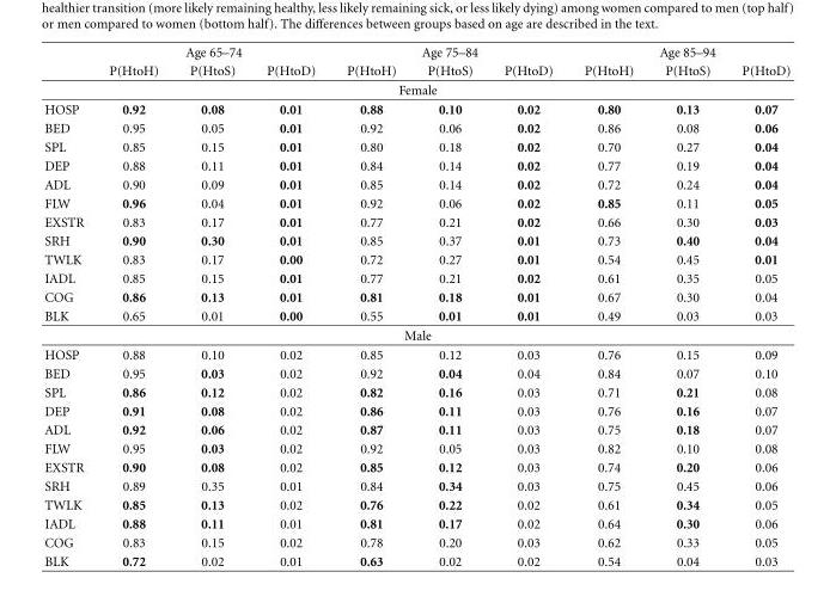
<table><thead><tr><td rowspan="2"></td><td colspan="3">Age 65–74</td><td colspan="3">Age 75–84</td><td colspan="3">Age 85–94</td></tr><tr><td>P(HtoH)</td><td>P(HtoS)</td><td>P(HtoD)</td><td>P(HtoH)</td><td>P(HtoS)</td><td>P(HtoD)</td><td>P(HtoH)</td><td>P(HtoS)</td><td>P(HtoD)</td></tr></thead><tbody><tr><td colspan="10">Female</td></tr><tr><td>HOSP</td><td>0.92</td><td>0.08</td><td>0.01</td><td>0.88</td><td>0.10</td><td>0.02</td><td>0.80</td><td>0.13</td><td>0.07</td></tr><tr><td>BED</td><td>0.95</td><td>0.05</td><td>0.01</td><td>0.92</td><td>0.06</td><td>0.02</td><td>0.86</td><td>0.08</td><td>0.06</td></tr><tr><td>SPL</td><td>0.85</td><td>0.15</td><td>0.01</td><td>0.80</td><td>0.18</td><td>0.02</td><td>0.70</td><td>0.27</td><td>0.04</td></tr><tr><td>DEP</td><td>0.88</td><td>0.11</td><td>0.01</td><td>0.84</td><td>0.14</td><td>0.02</td><td>0.77</td><td>0.19</td><td>0.04</td></tr><tr><td>ADL</td><td>0.90</td><td>0.09</td><td>0.01</td><td>0.85</td><td>0.14</td><td>0.02</td><td>0.72</td><td>0.24</td><td>0.04</td></tr><tr><td>FLW</td><td>0.96</td><td>0.04</td><td>0.01</td><td>0.92</td><td>0.06</td><td>0.02</td><td>0.85</td><td>0.11</td><td>0.05</td></tr><tr><td>EXSTR</td><td>0.83</td><td>0.17</td><td>0.01</td><td>0.77</td><td>0.21</td><td>0.02</td><td>0.66</td><td>0.30</td><td>0.03</td></tr><tr><td>SRH</td><td>0.90</td><td>0.30</td><td>0.01</td><td>0.85</td><td>0.37</td><td>0.01</td><td>0.73</td><td>0.40</td><td>0.04</td></tr><tr><td>TWLK</td><td>0.83</td><td>0.17</td><td>0.00</td><td>0.72</td><td>0.27</td><td>0.01</td><td>0.54</td><td>0.45</td><td>0.01</td></tr><tr><td>IADL</td><td>0.85</td><td>0.15</td><td>0.01</td><td>0.77</td><td>0.21</td><td>0.02</td><td>0.61</td><td>0.35</td><td>0.05</td></tr><tr><td>COG</td><td>0.86</td><td>0.13</td><td>0.01</td><td>0.81</td><td>0.18</td><td>0.01</td><td>0.67</td><td>0.30</td><td>0.04</td></tr><tr><td>BLK</td><td>0.65</td><td>0.01</td><td>0.00</td><td>0.55</td><td>0.01</td><td>0.01</td><td>0.49</td><td>0.03</td><td>0.03</td></tr><tr><td colspan="10">Male</td></tr><tr><td>HOSP</td><td>0.88</td><td>0.10</td><td>0.02</td><td>0.85</td><td>0.12</td><td>0.03</td><td>0.76</td><td>0.15</td><td>0.09</td></tr><tr><td>BED</td><td>0.95</td><td>0.03</td><td>0.02</td><td>0.92</td><td>0.04</td><td>0.04</td><td>0.84</td><td>0.07</td><td>0.10</td></tr><tr><td>SPL</td><td>0.86</td><td>0.12</td><td>0.02</td><td>0.82</td><td>0.16</td><td>0.03</td><td>0.71</td><td>0.21</td><td>0.08</td></tr><tr><td>DEP</td><td>0.91</td><td>0.08</td><td>0.02</td><td>0.86</td><td>0.11</td><td>0.03</td><td>0.76</td><td>0.16</td><td>0.07</td></tr><tr><td>ADL</td><td>0.92</td><td>0.06</td><td>0.02</td><td>0.87</td><td>0.11</td><td>0.03</td><td>0.75</td><td>0.18</td><td>0.07</td></tr><tr><td>FLW</td><td>0.95</td><td>0.03</td><td>0.02</td><td>0.92</td><td>0.05</td><td>0.03</td><td>0.82</td><td>0.10</td><td>0.08</td></tr><tr><td>EXSTR</td><td>0.90</td><td>0.08</td><td>0.02</td><td>0.85</td><td>0.12</td><td>0.03</td><td>0.74</td><td>0.20</td><td>0.06</td></tr><tr><td>SRH</td><td>0.89</td><td>0.35</td><td>0.01</td><td>0.84</td><td>0.34</td><td>0.03</td><td>0.75</td><td>0.45</td><td>0.06</td></tr><tr><td>TWLK</td><td>0.85</td><td>0.13</td><td>0.02</td><td>0.76</td><td>0.22</td><td>0.02</td><td>0.61</td><td>0.34</td><td>0.05</td></tr><tr><td>IADL</td><td>0.88</td><td>0.11</td><td>0.01</td><td>0.81</td><td>0.17</td><td>0.02</td><td>0.64</td><td>0.30</td><td>0.06</td></tr><tr><td>COG</td><td>0.83</td><td>0.15</td><td>0.02</td><td>0.78</td><td>0.20</td><td>0.03</td><td>0.62</td><td>0.33</td><td>0.05</td></tr><tr><td>BLK</td><td>0.72</td><td>0.02</td><td>0.01</td><td>0.63</td><td>0.02</td><td>0.02</td><td>0.54</td><td>0.04</td><td>0.03</td></tr></tbody></table>